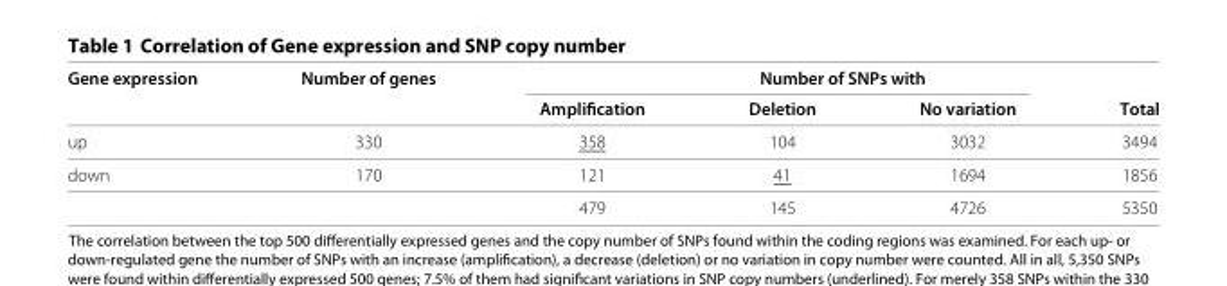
<table><thead><tr><td rowspan="2">Gene expression</td><td rowspan="2">Number of genes</td><td colspan="3">Number of SNPs with</td><td rowspan="2">Total</td></tr><tr><td>Amplification</td><td>Deletion</td><td>No variation</td></tr></thead><tbody><tr><td>up</td><td>330</td><td>358</td><td>104</td><td>3032</td><td>3494</td></tr><tr><td rowspan="2">down</td><td>170</td><td>121</td><td>41</td><td>1694</td><td>1856</td></tr><tr><td></td><td>479</td><td>145</td><td>4726</td><td>5350</td></tr></tbody></table>